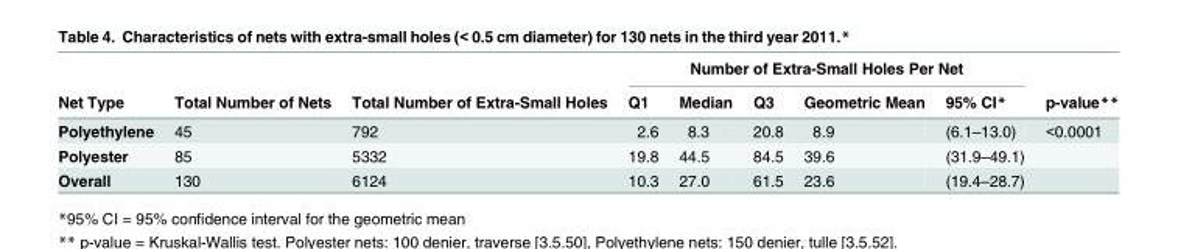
<table><thead><tr><td rowspan="2">Net Type</td><td rowspan="2">Total Number of Nets</td><td rowspan="2">Total Number of Extra-Small Holes</td><td colspan="5">Number of Extra-Small Holes Per Net</td><td rowspan="2">p-value**</td></tr><tr><td>Q1</td><td>Median</td><td>Q3</td><td>Geometric Mean</td><td>95% CI*</td></tr></thead><tbody><tr><td>Polyethylene</td><td>45</td><td>792</td><td>2.6</td><td>8.3</td><td>20.8</td><td>8.9</td><td>(6.1–13.0)</td><td>&lt;0.0001</td></tr><tr><td>Polyester</td><td>85</td><td>5332</td><td>19.8</td><td>44.5</td><td>84.5</td><td>39.6</td><td>(31.9–49.1)</td><td></td></tr><tr><td>Overall</td><td>130</td><td>6124</td><td>10.3</td><td>27.0</td><td>61.5</td><td>23.6</td><td>(19.4–28.7)</td><td></td></tr></tbody></table>